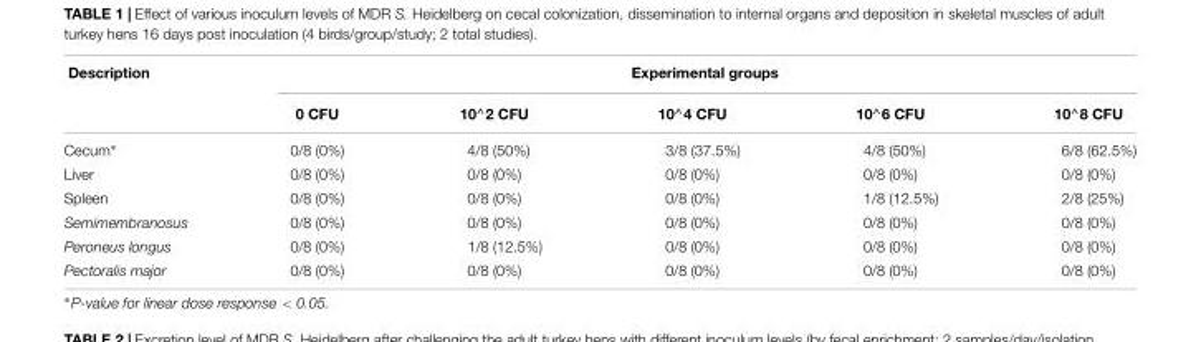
<table><thead><tr><td rowspan="2">Description</td><td colspan="5">Experimental groups</td></tr><tr><td>0 CFU</td><td>10<sup>∧</sup>2 CFU</td><td>10<sup>∧</sup>4 CFU</td><td>10<sup>∧</sup>6 CFU</td><td>10<sup>∧</sup>8 CFU</td></tr></thead><tbody><tr><td>Cecum∗</td><td>0/8 (0%)</td><td>4/8 (50%)</td><td>3/8 (37.5%)</td><td>4/8 (50%)</td><td>6/8 (62.5%)</td></tr><tr><td>Liver</td><td>0/8 (0%)</td><td>0/8 (0%)</td><td>0/8 (0%)</td><td>0/8 (0%)</td><td>0/8 (0%)</td></tr><tr><td>Spleen</td><td>0/8 (0%)</td><td>0/8 (0%)</td><td>0/8 (0%)</td><td>1/8 (12.5%)</td><td>2/8 (25%)</td></tr><tr><td>Semimembranosus</td><td>0/8 (0%)</td><td>0/8 (0%)</td><td>0/8 (0%)</td><td>0/8 (0%)</td><td>0/8 (0%)</td></tr><tr><td>Peroneus longus</td><td>0/8 (0%)</td><td>1/8 (12.5%)</td><td>0/8 (0%)</td><td>0/8 (0%)</td><td>0/8 (0%)</td></tr><tr><td>Pectoralis major</td><td>0/8 (0%)</td><td>0/8 (0%)</td><td>0/8 (0%)</td><td>0/8 (0%)</td><td>0/8 (0%)</td></tr></tbody></table>